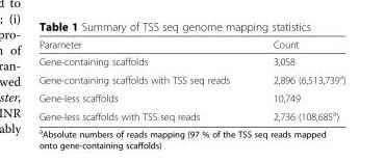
<table><thead><tr><td>Parameter</td><td>Count</td></tr></thead><tbody><tr><td>Gene-containing scaffolds</td><td>3,058</td></tr><tr><td>Gene-containing scaffolds with TSS seq reads</td><td>2,896 (6,513,739<sup>a</sup>)</td></tr><tr><td>Gene-less scaffolds</td><td>10,749</td></tr><tr><td>Gene-less scaffolds with TSS seq reads</td><td>2,736 (108,685<sup>a</sup>)</td></tr></tbody></table>